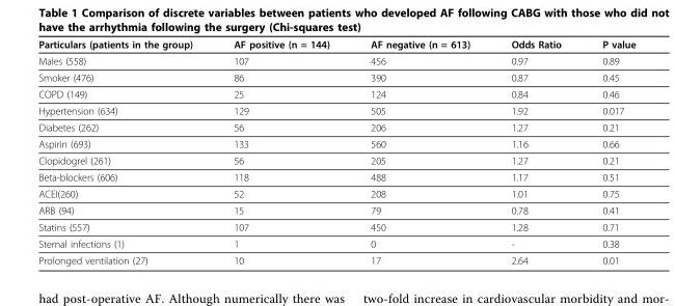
<table><thead><tr><td>Particulars (patients in the group)</td><td>AF positive (n = 144)</td><td>AF negative (n = 613)</td><td>Odds Ratio</td><td>P value</td></tr></thead><tbody><tr><td>Males (558)</td><td>107</td><td>456</td><td>0.97</td><td>0.89</td></tr><tr><td>Smoker (476)</td><td>86</td><td>390</td><td>0.87</td><td>0.45</td></tr><tr><td>COPD (149)</td><td>25</td><td>124</td><td>0.84</td><td>0.46</td></tr><tr><td>Hypertension (634)</td><td>129</td><td>505</td><td>1.92</td><td>0.017</td></tr><tr><td>Diabetes (262)</td><td>56</td><td>206</td><td>1.27</td><td>0.21</td></tr><tr><td>Aspirin (693)</td><td>133</td><td>560</td><td>1.16</td><td>0.66</td></tr><tr><td>Clopidogrel (261)</td><td>56</td><td>205</td><td>1.27</td><td>0.21</td></tr><tr><td>Beta-blockers (606)</td><td>118</td><td>488</td><td>1.17</td><td>0.51</td></tr><tr><td>ACEI(260)</td><td>52</td><td>208</td><td>1.01</td><td>0.75</td></tr><tr><td>ARB (94)</td><td>15</td><td>79</td><td>0.78</td><td>0.41</td></tr><tr><td>Statins (557)</td><td>107</td><td>450</td><td>1.28</td><td>0.71</td></tr><tr><td>Sternal infections (1)</td><td>1</td><td>0</td><td>-</td><td>0.38</td></tr><tr><td>Prolonged ventilation (27)</td><td>10</td><td>17</td><td>2.64</td><td>0.01</td></tr></tbody></table>